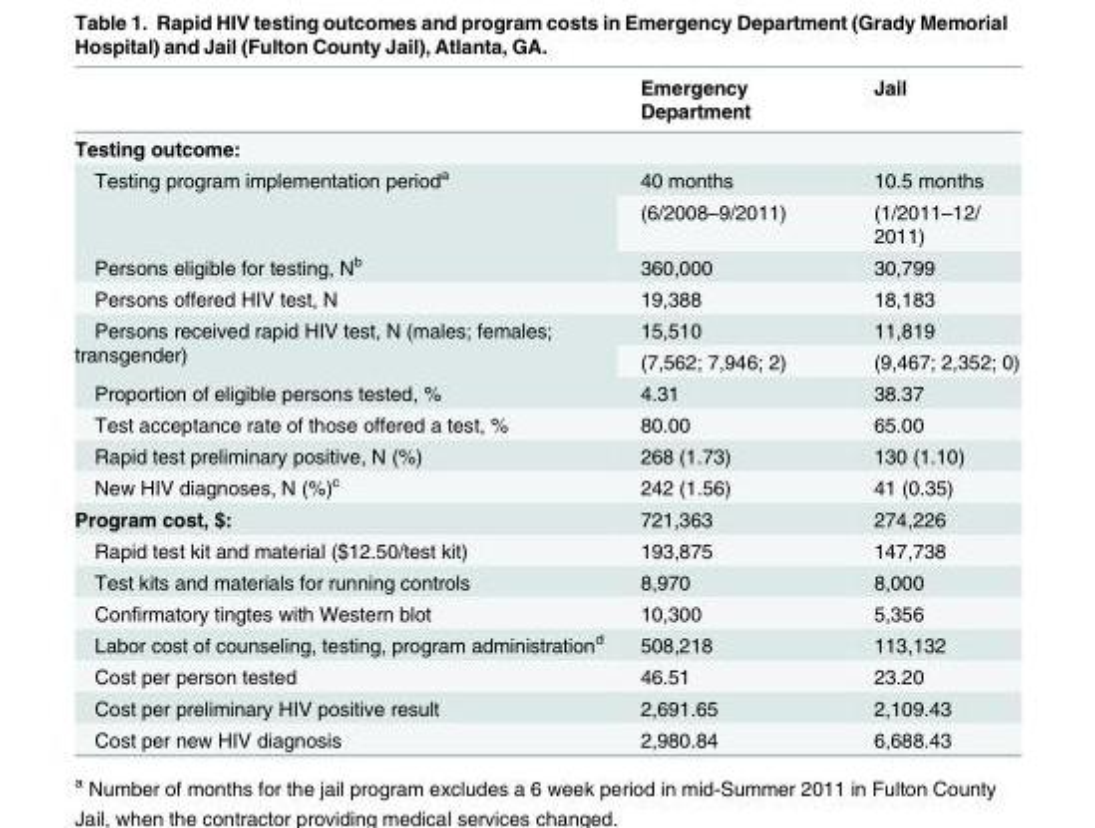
<table><thead><tr><td></td><td>Emergency Department</td><td>Jail</td></tr></thead><tbody><tr><td colspan="3">Testing outcome:</td></tr><tr><td rowspan="2">Testing program implementation period<sup>a</sup></td><td>40 months</td><td>10.5 months</td></tr><tr><td>(6/2008–9/2011)</td><td>(1/2011–12/ 2011)</td></tr><tr><td>Persons eligible for testing, N<sup>b</sup></td><td>360,000</td><td>30,799</td></tr><tr><td>Persons offered HIV test, N</td><td>19,388</td><td>18,183</td></tr><tr><td rowspan="2">Persons received rapid HIV test, N (males; females; transgender)</td><td>15,510</td><td>11,819</td></tr><tr><td>(7,562; 7,946; 2)</td><td>(9,467; 2,352; 0)</td></tr><tr><td>Proportion of eligible persons tested, %</td><td>4.31</td><td>38.37</td></tr><tr><td>Test acceptance rate of those offered a test, %</td><td>80.00</td><td>65.00</td></tr><tr><td>Rapid test preliminary positive, N (%)</td><td>268 (1.73)</td><td>130 (1.10)</td></tr><tr><td>New HIV diagnoses, N (%)<sup>c</sup></td><td>242 (1.56)</td><td>41 (0.35)</td></tr><tr><td>Program cost, $:</td><td>721,363</td><td>274,226</td></tr><tr><td>Rapid test kit and material ($12.50/test kit)</td><td>193,875</td><td>147,738</td></tr><tr><td>Test kits and materials for running controls</td><td>8,970</td><td>8,000</td></tr><tr><td>Confirmatory tingtes with Western blot</td><td>10,300</td><td>5,356</td></tr><tr><td>Labor cost of counseling, testing, program administration<sup>d</sup></td><td>508,218</td><td>113,132</td></tr><tr><td>Cost per person tested</td><td>46.51</td><td>23.20</td></tr><tr><td>Cost per preliminary HIV positive result</td><td>2,691.65</td><td>2,109.43</td></tr><tr><td>Cost per new HIV diagnosis</td><td>2,980.84</td><td>6,688.43</td></tr></tbody></table>